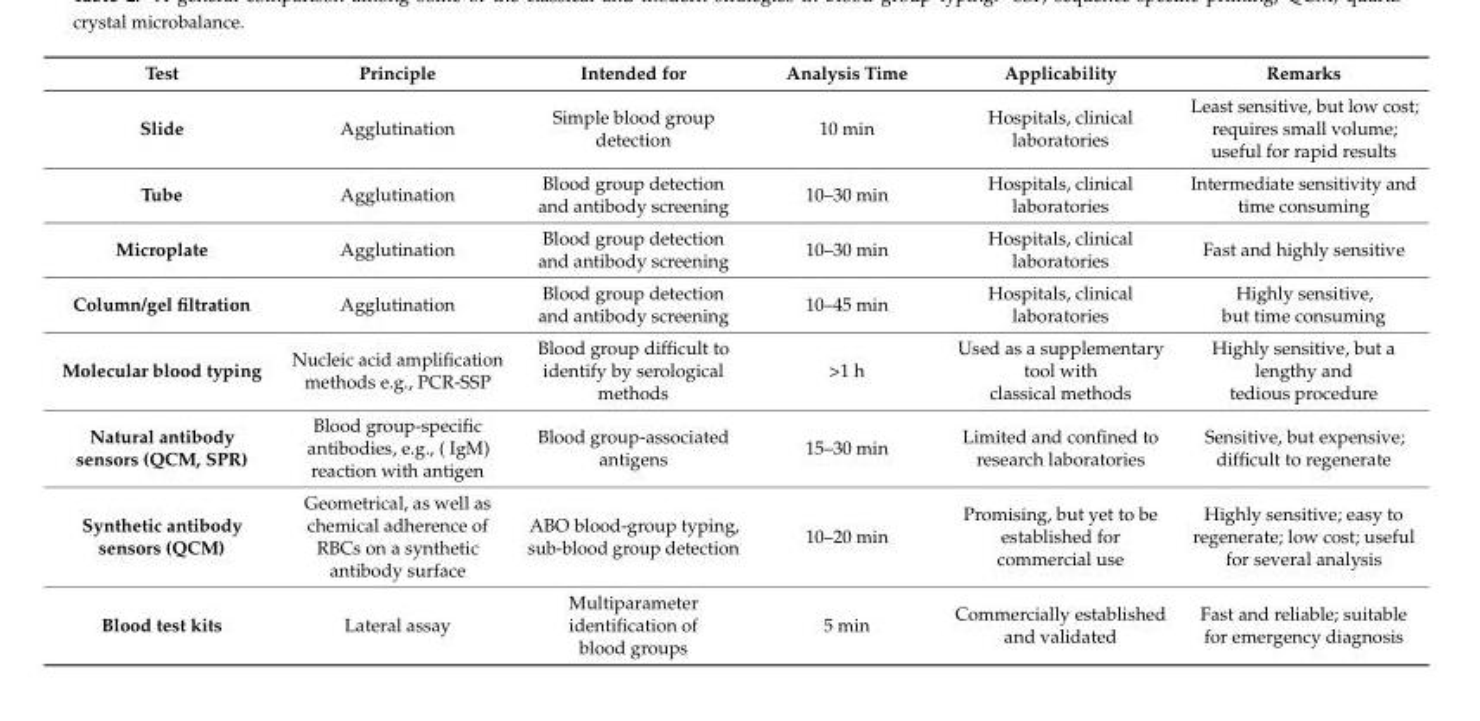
<table><thead><tr><td>Test</td><td>Principle</td><td>Intended for</td><td>Analysis Time</td><td>Applicability</td><td>Remarks</td></tr></thead><tbody><tr><td>Slide</td><td>Agglutination</td><td>Simple blood group detection</td><td>10 min</td><td>Hospitals, clinical laboratories</td><td>Least sensitive, but low cost; requires small volume; useful for rapid results</td></tr><tr><td>Tube</td><td>Agglutination</td><td>Blood group detection and antibody screening</td><td>10–30 min</td><td>Hospitals, clinical laboratories</td><td>Intermediate sensitivity and time consuming</td></tr><tr><td>Microplate</td><td>Agglutination</td><td>Blood group detection and antibody screening</td><td>10–30 min</td><td>Hospitals, clinical laboratories</td><td>Fast and highly sensitive</td></tr><tr><td>Column/gel filtration</td><td>Agglutination</td><td>Blood group detection and antibody screening</td><td>10–45 min</td><td>Hospitals, clinical laboratories</td><td>Highly sensitive, but time consuming</td></tr><tr><td>Molecular blood typing</td><td>Nucleic acid amplification methods e.g., PCR-SSP</td><td>Blood group difficult to identify by serological methods</td><td>&gt;1 h</td><td>Used as a supplementary tool with classical methods</td><td>Highly sensitive, but a lengthy and tedious procedure</td></tr><tr><td>Natural antibody sensors (QCM, SPR)</td><td>Blood group-specific antibodies, e.g., ( IgM) reaction with antigen</td><td>Blood group-associated antigens</td><td>15–30 min</td><td>Limited and confined to research laboratories</td><td>Sensitive, but expensive; difficult to regenerate</td></tr><tr><td>Synthetic antibody sensors (QCM)</td><td>Geometrical, as well as chemical adherence of RBCs on a synthetic antibody surface</td><td>ABO blood-group typing, sub-blood group detection</td><td>10–20 min</td><td>Promising, but yet to be established for commercial use</td><td>Highly sensitive; easy to regenerate; low cost; useful for several analysis</td></tr><tr><td>Blood test kits</td><td>Lateral assay</td><td>Multiparameter identification of blood groups</td><td>5 min</td><td>Commercially established and validated</td><td>Fast and reliable; suitable for emergency diagnosis</td></tr></tbody></table>